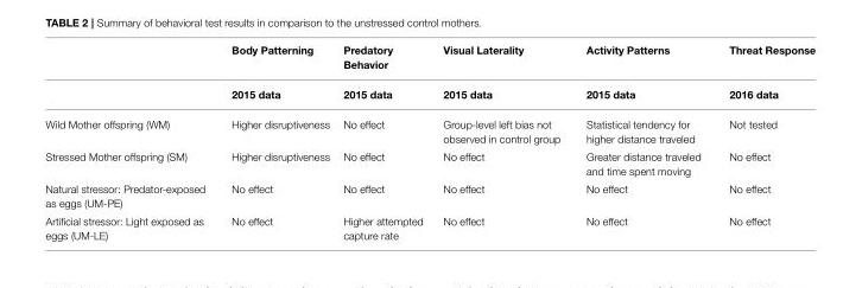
<table><thead><tr><td></td><td>Body Patterning</td><td>Predatory Behavior</td><td>Visual Laterality</td><td>Activity Patterns</td><td>Threat Response</td></tr></thead><tbody><tr><td></td><td>2015 data</td><td>2015 data</td><td>2015 data</td><td>2015 data</td><td>2016 data</td></tr><tr><td>Wild Mother offspring (WM)</td><td>Higher disruptiveness</td><td>No effect</td><td>Group-level left bias not observed in control group</td><td>Statistical tendency for higher distance traveled</td><td>Not tested</td></tr><tr><td>Stressed Mother offspring (SM)</td><td>Higher disruptiveness</td><td>No effect</td><td>No effect</td><td>Greater distance traveled and time spent moving</td><td>No effect</td></tr><tr><td>Natural stressor: Predator-exposed as eggs (UM-PE)</td><td>No effect</td><td>No effect</td><td>No effect</td><td>No effect</td><td>No effect</td></tr><tr><td>Artificial stressor: Light exposed as eggs (UM-LE)</td><td>No effect</td><td>Higher attempted capture rate</td><td>No effect</td><td>No effect</td><td>No effect</td></tr></tbody></table>